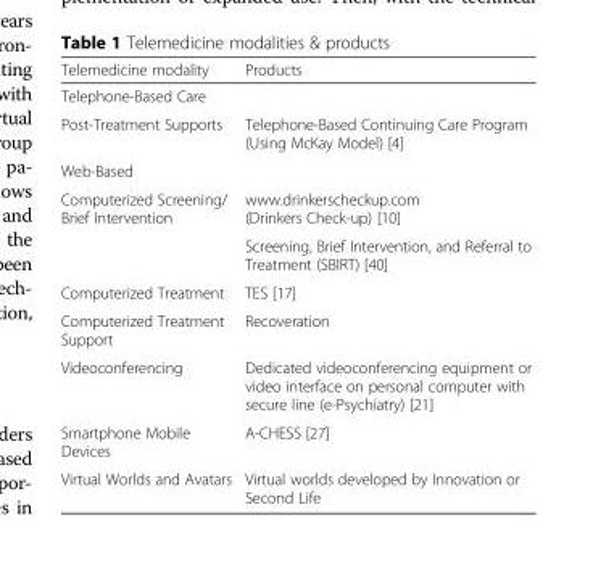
<table><thead><tr><td>Telemedicine modality</td><td>Products</td></tr></thead><tbody><tr><td colspan="2">Telephone-Based Care</td></tr><tr><td>Post-Treatment Supports</td><td>Telephone-Based Continuing Care Program (Using McKay Model) [4]</td></tr><tr><td colspan="2">Web-Based</td></tr><tr><td rowspan="2">Computerized Screening/ Brief Intervention</td><td>www.drinkerscheckup.com (Drinkers Check-up) [10]</td></tr><tr><td>Screening, Brief Intervention, and Referral to Treatment (SBIRT) [40]</td></tr><tr><td>Computerized Treatment</td><td>TES [17]</td></tr><tr><td>Computerized Treatment Support</td><td>Recoveration</td></tr><tr><td>Videoconferencing</td><td>Dedicated videoconferencing equipment or video interface on personal computer with secure line (e-Psychiatry) [21]</td></tr><tr><td>Smartphone Mobile Devices</td><td>A-CHESS [27]</td></tr><tr><td>Virtual Worlds and Avatars</td><td>Virtual worlds developed by Innovation or Second Life</td></tr></tbody></table>